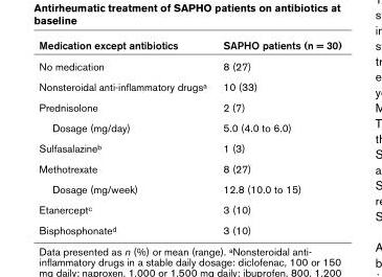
<table><thead><tr><td>Medication except antibiotics</td><td>SAPHO patients (n = 30)</td></tr></thead><tbody><tr><td>No medication</td><td>8 (27)</td></tr><tr><td>Nonsteroidal anti-inflammatory drugs<sup>a</sup></td><td>10 (33)</td></tr><tr><td>Prednisolone</td><td>2 (7)</td></tr><tr><td>Dosage (mg/day)</td><td>5.0 (4.0 to 6.0)</td></tr><tr><td>Sulfasalazine<sup>b</sup></td><td>1 (3)</td></tr><tr><td>Methotrexate</td><td>8 (27)</td></tr><tr><td>Dosage (mg/week)</td><td>12.8 (10.0 to 15)</td></tr><tr><td>Etanercept<sup>c</sup></td><td>3 (10)</td></tr><tr><td>Bisphosphonate<sup>d</sup></td><td>3 (10)</td></tr></tbody></table>